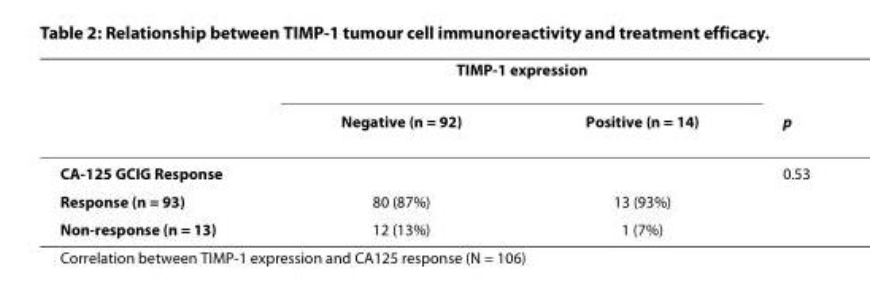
<table><thead><tr><td rowspan="2"></td><td colspan="2">TIMP-1 expression</td><td rowspan="2">p</td></tr><tr><td>Negative (n = 92)</td><td>Positive (n = 14)</td></tr></thead><tbody><tr><td>CA-125 GCIG Response</td><td></td><td></td><td>0.53</td></tr><tr><td>Response (n = 93)</td><td>80 (87%)</td><td>13 (93%)</td><td></td></tr><tr><td>Non-response (n = 13)</td><td>12 (13%)</td><td>1 (7%)</td><td></td></tr></tbody></table>